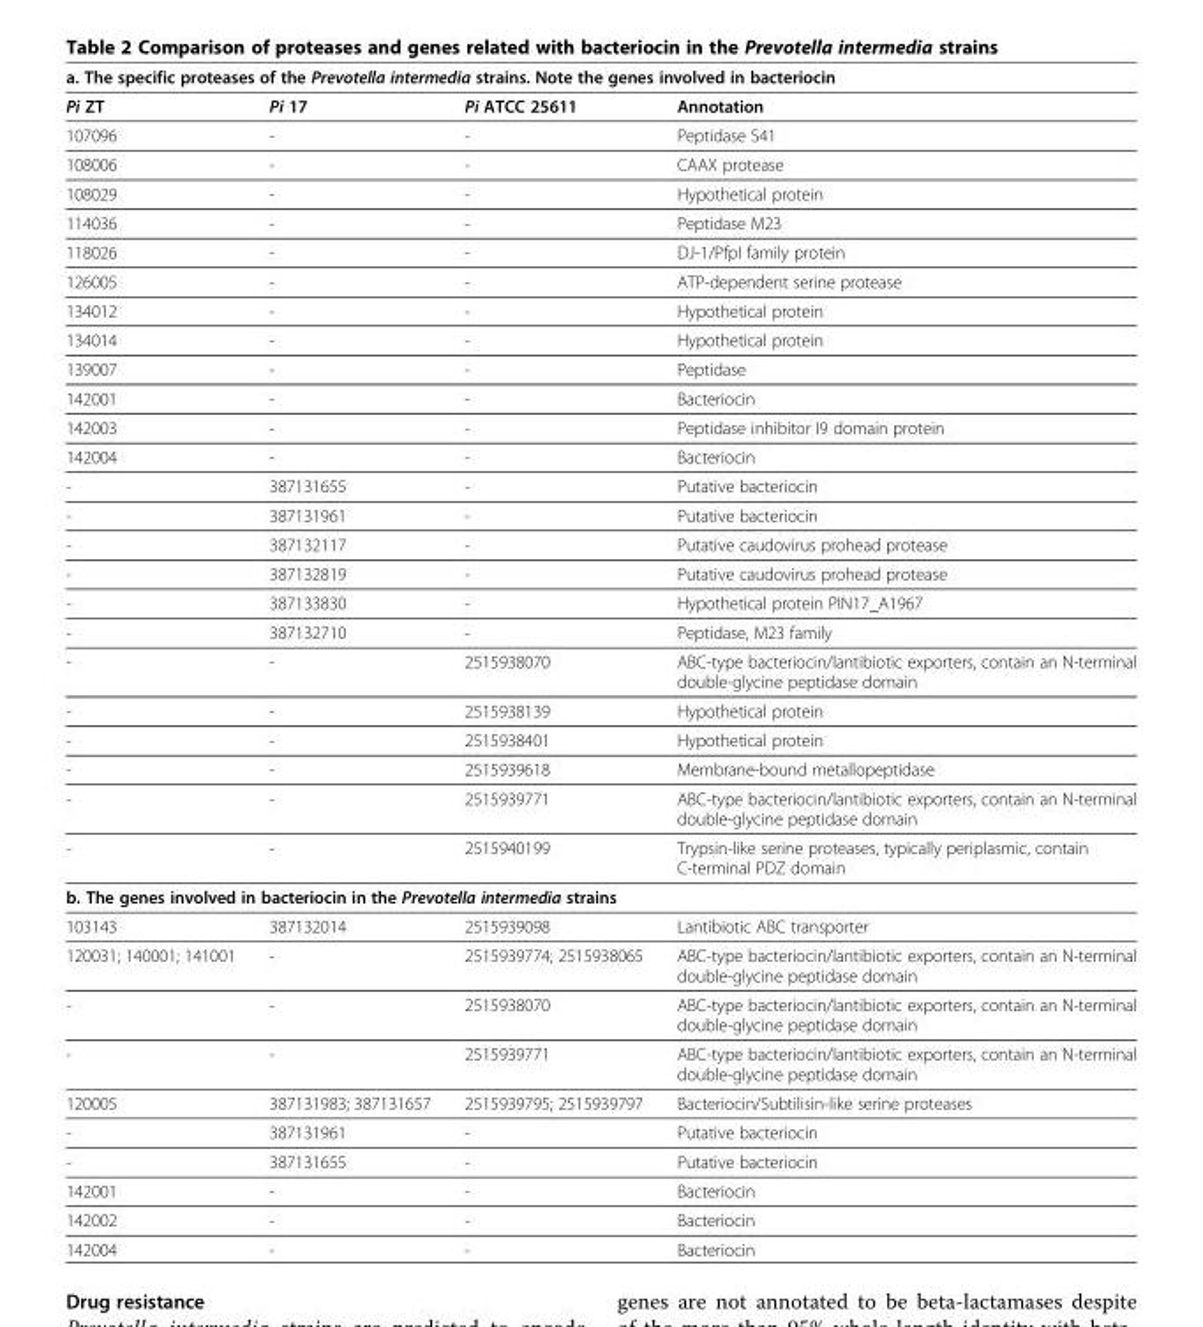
<table><thead><tr><td colspan="4">a. The specific proteases of the Prevotella intermedia strains. Note the genes involved in bacteriocin</td></tr><tr><td>Pi ZT</td><td>Pi 17</td><td>Pi ATCC 25611</td><td>Annotation</td></tr></thead><tbody><tr><td>107096</td><td>-</td><td>-</td><td>Peptidase S41</td></tr><tr><td>108006</td><td>-</td><td>-</td><td>CAAX protease</td></tr><tr><td>108029</td><td>-</td><td>-</td><td>Hypothetical protein</td></tr><tr><td>114036</td><td>-</td><td>-</td><td>Peptidase M23</td></tr><tr><td>118026</td><td>-</td><td>-</td><td>DJ-1/PfpI family protein</td></tr><tr><td>126005</td><td>-</td><td>-</td><td>ATP-dependent serine protease</td></tr><tr><td>134012</td><td>-</td><td>-</td><td>Hypothetical protein</td></tr><tr><td>134014</td><td>-</td><td>-</td><td>Hypothetical protein</td></tr><tr><td>139007</td><td>-</td><td>-</td><td>Peptidase</td></tr><tr><td>142001</td><td>-</td><td>-</td><td>Bacteriocin</td></tr><tr><td>142003</td><td>-</td><td>-</td><td>Peptidase inhibitor I9 domain protein</td></tr><tr><td>142004</td><td>-</td><td>-</td><td>Bacteriocin</td></tr><tr><td>-</td><td>387131655</td><td>-</td><td>Putative bacteriocin</td></tr><tr><td>-</td><td>387131961</td><td>-</td><td>Putative bacteriocin</td></tr><tr><td>-</td><td>387132117</td><td>-</td><td>Putative caudovirus prohead protease</td></tr><tr><td>-</td><td>387132819</td><td>-</td><td>Putative caudovirus prohead protease</td></tr><tr><td>-</td><td>387133830</td><td>-</td><td>Hypothetical protein PIN17_A1967</td></tr><tr><td>-</td><td>387132710</td><td>-</td><td>Peptidase, M23 family</td></tr><tr><td>-</td><td>-</td><td>2515938070</td><td>ABC-type bacteriocin/lantibiotic exporters, contain an N-terminal double-glycine peptidase domain</td></tr><tr><td>-</td><td>-</td><td>2515938139</td><td>Hypothetical protein</td></tr><tr><td>-</td><td>-</td><td>2515938401</td><td>Hypothetical protein</td></tr><tr><td>-</td><td>-</td><td>2515939618</td><td>Membrane-bound metallopeptidase</td></tr><tr><td>-</td><td>-</td><td>2515939771</td><td>ABC-type bacteriocin/lantibiotic exporters, contain an N-terminal double-glycine peptidase domain</td></tr><tr><td>-</td><td>-</td><td>2515940199</td><td>Trypsin-like serine proteases, typically periplasmic, contain C-terminal PDZ domain</td></tr><tr><td colspan="4">b. The genes involved in bacteriocin in the Prevotella intermedia strains</td></tr><tr><td>103143</td><td>387132014</td><td>2515939098</td><td>Lantibiotic ABC transporter</td></tr><tr><td>120031; 140001; 141001</td><td>-</td><td>2515939774; 2515938065</td><td>ABC-type bacteriocin/lantibiotic exporters, contain an N-terminal double-glycine peptidase domain</td></tr><tr><td>-</td><td>-</td><td>2515938070</td><td>ABC-type bacteriocin/lantibiotic exporters, contain an N-terminal double-glycine peptidase domain</td></tr><tr><td>-</td><td>-</td><td>2515939771</td><td>ABC-type bacteriocin/lantibiotic exporters, contain an N-terminal double-glycine peptidase domain</td></tr><tr><td>120005</td><td>387131983; 387131657</td><td>2515939795; 2515939797</td><td>Bacteriocin/Subtilisin-like serine proteases</td></tr><tr><td>-</td><td>387131961</td><td>-</td><td>Putative bacteriocin</td></tr><tr><td>-</td><td>387131655</td><td>-</td><td>Putative bacteriocin</td></tr><tr><td>142001</td><td>-</td><td>-</td><td>Bacteriocin</td></tr><tr><td>142002</td><td>-</td><td>-</td><td>Bacteriocin</td></tr><tr><td>142004</td><td>-</td><td>-</td><td>Bacteriocin</td></tr></tbody></table>